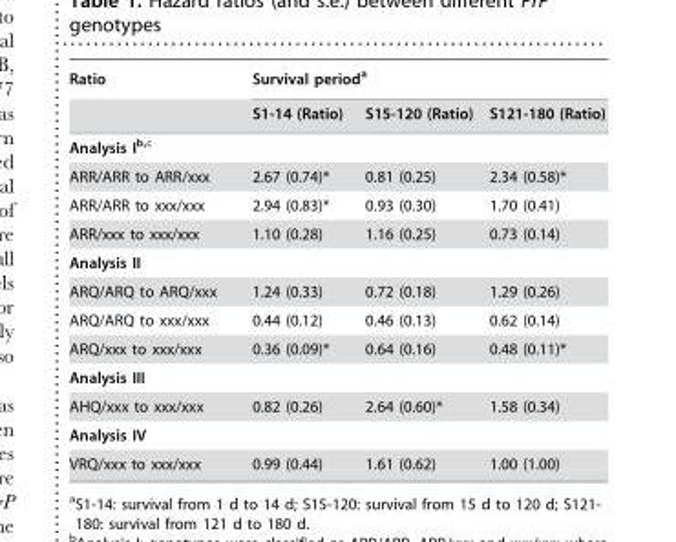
<table><thead><tr><td rowspan="2">Ratio</td><td colspan="3">Survival period<sup>a</sup></td></tr><tr><td>S1-14 (Ratio)</td><td>S15-120 (Ratio)</td><td>S121-180 (Ratio)</td></tr></thead><tbody><tr><td colspan="4">Analysis Ib,c</td></tr><tr><td>ARR/ARR to ARR/xxx</td><td>2.67 (0.74)*</td><td>0.81 (0.25)</td><td>2.34 (0.58)*</td></tr><tr><td>ARR/ARR to xxx/xxx</td><td>2.94 (0.83)*</td><td>0.93 (0.30)</td><td>1.70 (0.41)</td></tr><tr><td>ARR/xxx to xxx/xxx</td><td>1.10 (0.28)</td><td>1.16 (0.25)</td><td>0.73 (0.14)</td></tr><tr><td colspan="4">Analysis II</td></tr><tr><td>ARQ/ARQ to ARQ/xxx</td><td>1.24 (0.33)</td><td>0.72 (0.18)</td><td>1.29 (0.26)</td></tr><tr><td>ARQ/ARQ to xxx/xxx</td><td>0.44 (0.12)</td><td>0.46 (0.13)</td><td>0.62 (0.14)</td></tr><tr><td>ARQ/xxx to xxx/xxx</td><td>0.36 (0.09)*</td><td>0.64 (0.16)</td><td>0.48 (0.11)*</td></tr><tr><td colspan="4">Analysis III</td></tr><tr><td>AHQ/xxx to xxx/xxx</td><td>0.82 (0.26)</td><td>2.64 (0.60)*</td><td>1.58 (0.34)</td></tr><tr><td colspan="4">Analysis IV</td></tr><tr><td>VRQ/xxx to xxx/xxx</td><td>0.99 (0.44)</td><td>1.61 (0.62)</td><td>1.00 (1.00)</td></tr></tbody></table>